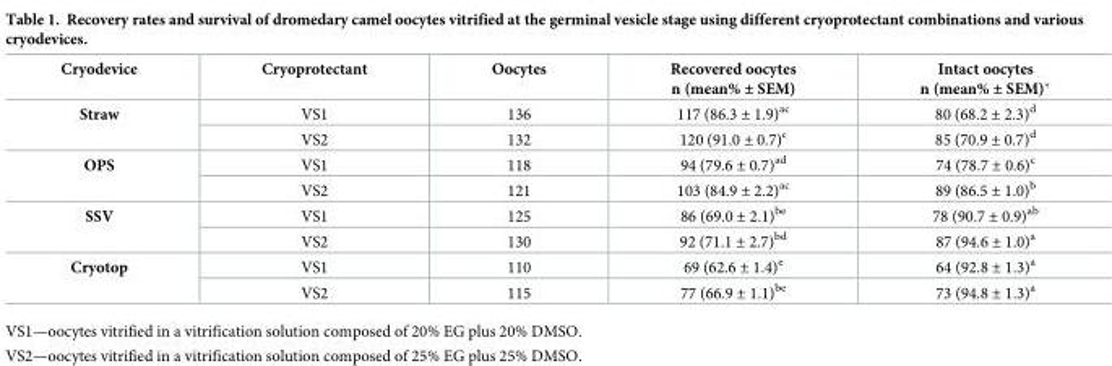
<table><thead><tr><td>Cryodevice</td><td>Cryoprotectant</td><td>Oocytes</td><td>Recovered oocytes n (mean% ± SEM)</td><td>Intact oocytes n (mean% ± SEM)*</td></tr></thead><tbody><tr><td rowspan="2">Straw</td><td>VS1</td><td>136</td><td>117 (86.3 ± 1.9)<sup>ac</sup></td><td>80 (68.2 ± 2.3)<sup>d</sup></td></tr><tr><td>VS2</td><td>132</td><td>120 (91.0 ± 0.7)<sup>c</sup></td><td>85 (70.9 ± 0.7)<sup>d</sup></td></tr><tr><td rowspan="2">OPS</td><td>VS1</td><td>118</td><td>94 (79.6 ± 0.7)<sup>ad</sup></td><td>74 (78.7 ± 0.6)<sup>c</sup></td></tr><tr><td>VS2</td><td>121</td><td>103 (84.9 ± 2.2)<sup>ac</sup></td><td>89 (86.5 ± 1.0)<sup>b</sup></td></tr><tr><td rowspan="2">SSV</td><td>VS1</td><td>125</td><td>86 (69.0 ± 2.1)<sup>be</sup></td><td>78 (90.7 ± 0.9)<sup>ab</sup></td></tr><tr><td>VS2</td><td>130</td><td>92 (71.1 ± 2.7)<sup>bd</sup></td><td>87 (94.6 ± 1.0)<sup>a</sup></td></tr><tr><td rowspan="2">Cryotop</td><td>VS1</td><td>110</td><td>69 (62.6 ± 1.4)<sup>e</sup></td><td>64 (92.8 ± 1.3)<sup>a</sup></td></tr><tr><td>VS2</td><td>115</td><td>77 (66.9 ± 1.1)<sup>be</sup></td><td>73 (94.8 ± 1.3)<sup>a</sup></td></tr></tbody></table>